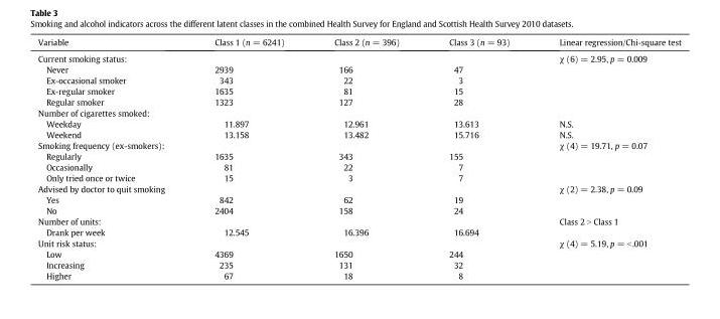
<table><thead><tr><td>Variable</td><td>Class 1 (n = 6241)</td><td>Class 2 (n = 396)</td><td>Class 3 (n = 93)</td><td>Linear regression/Chi-square test</td></tr></thead><tbody><tr><td>Current smoking status:</td><td></td><td></td><td></td><td>χ (6) = 2.95, p = 0.009</td></tr><tr><td>Never</td><td>2939</td><td>166</td><td>47</td><td></td></tr><tr><td>Ex-occasional smoker</td><td>343</td><td>22</td><td>3</td><td></td></tr><tr><td>Ex-regular smoker</td><td>1635</td><td>81</td><td>15</td><td></td></tr><tr><td>Regular smoker</td><td>1323</td><td>127</td><td>28</td><td></td></tr><tr><td colspan="5">Number of cigarettes smoked:</td></tr><tr><td>Weekday</td><td>11.897</td><td>12.961</td><td>13.613</td><td>N.S.</td></tr><tr><td>Weekend</td><td>13.158</td><td>13.482</td><td>15.716</td><td>N.S.</td></tr><tr><td>Smoking frequency (ex-smokers):</td><td></td><td></td><td></td><td>χ (4) = 19.71, p = 0.07</td></tr><tr><td>Regularly</td><td>1635</td><td>343</td><td>155</td><td></td></tr><tr><td>Occasionally</td><td>81</td><td>22</td><td>7</td><td></td></tr><tr><td>Only tried once or twice</td><td>15</td><td>3</td><td>7</td><td></td></tr><tr><td>Advised by doctor to quit smoking</td><td></td><td></td><td></td><td>χ (2) = 2.38, p = 0.09</td></tr><tr><td>Yes</td><td>842</td><td>62</td><td>19</td><td></td></tr><tr><td>No</td><td>2404</td><td>158</td><td>24</td><td></td></tr><tr><td>Number of units:</td><td></td><td></td><td></td><td>Class 2 &gt; Class 1</td></tr><tr><td>Drank per week</td><td>12.545</td><td>16.396</td><td>16.694</td><td></td></tr><tr><td>Unit risk status:</td><td></td><td></td><td></td><td>χ (4) = 5.19, p = &lt;.001</td></tr><tr><td>Low</td><td>4369</td><td>1650</td><td>244</td><td></td></tr><tr><td>Increasing</td><td>235</td><td>131</td><td>32</td><td></td></tr><tr><td>Higher</td><td>67</td><td>18</td><td>8</td><td></td></tr></tbody></table>